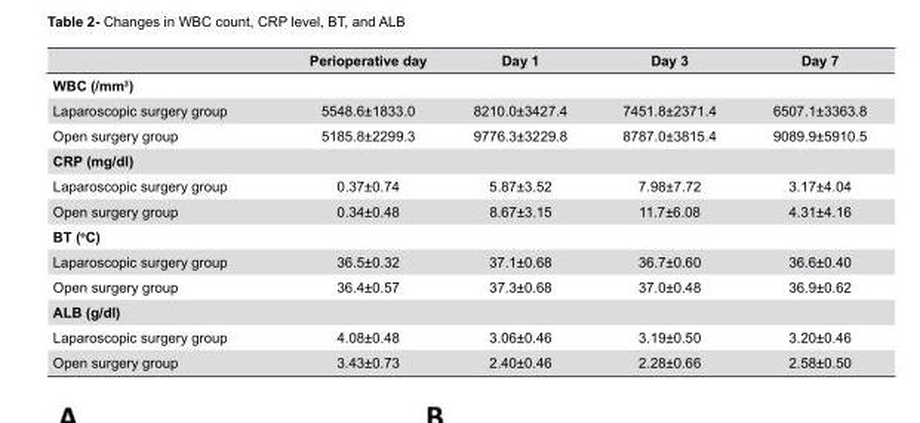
<table><thead><tr><td></td><td>Perioperative day</td><td>Day 1</td><td>Day 3</td><td>Day 7</td></tr></thead><tbody><tr><td colspan="5">WBC (/mm<sup>3</sup>)</td></tr><tr><td>Laparoscopic surgery group</td><td>5548.6±1833.0</td><td>8210.0±3427.4</td><td>7451.8±2371.4</td><td>6507.1±3363.8</td></tr><tr><td>Open surgery group</td><td>5185.8±2299.3</td><td>9776.3±3229.8</td><td>8787.0±3815.4</td><td>9089.9±5910.5</td></tr><tr><td colspan="5">CRP (mg/dl)</td></tr><tr><td>Laparoscopic surgery group</td><td>0.37±0.74</td><td>5.87±3.52</td><td>7.98±7.72</td><td>3.17±4.04</td></tr><tr><td>Open surgery group</td><td>0.34±0.48</td><td>8.67±3.15</td><td>11.7±6.08</td><td>4.31±4.16</td></tr><tr><td colspan="5">BT (<sup>o</sup>C)</td></tr><tr><td>Laparoscopic surgery group</td><td>36.5±0.32</td><td>37.1±0.68</td><td>36.7±0.60</td><td>36.6±0.40</td></tr><tr><td>Open surgery group</td><td>36.4±0.57</td><td>37.3±0.68</td><td>37.0±0.48</td><td>36.9±0.62</td></tr><tr><td colspan="5">ALB (g/dl)</td></tr><tr><td>Laparoscopic surgery group</td><td>4.08±0.48</td><td>3.06±0.46</td><td>3.19±0.50</td><td>3.20±0.46</td></tr><tr><td>Open surgery group</td><td>3.43±0.73</td><td>2.40±0.46</td><td>2.28±0.66</td><td>2.58±0.50</td></tr></tbody></table>